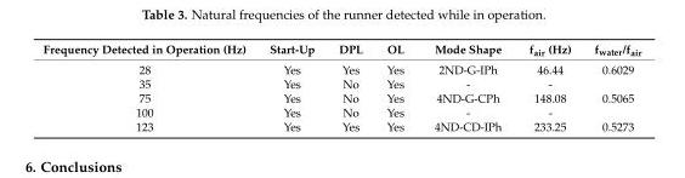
<table><thead><tr><td>Frequency Detected in Operation (Hz)</td><td>Start-Up</td><td>DPL</td><td>OL</td><td>Mode Shape</td><td>f<sub>air</sub> (Hz)</td><td>f<sub>water</sub>/f<sub>air</sub></td></tr></thead><tbody><tr><td>28</td><td>Yes</td><td>Yes</td><td>Yes</td><td>2ND-G-IPh</td><td>46.44</td><td>0.6029</td></tr><tr><td>35</td><td>Yes</td><td>No</td><td>Yes</td><td>-</td><td>-</td><td></td></tr><tr><td>75</td><td>Yes</td><td>No</td><td>Yes</td><td>4ND-G-CPh</td><td>148.08</td><td>0.5065</td></tr><tr><td>100</td><td>Yes</td><td>No</td><td>Yes</td><td>-</td><td>-</td><td></td></tr><tr><td>123</td><td>Yes</td><td>Yes</td><td>Yes</td><td>4ND-CD-IPh</td><td>233.25</td><td>0.5273</td></tr></tbody></table>